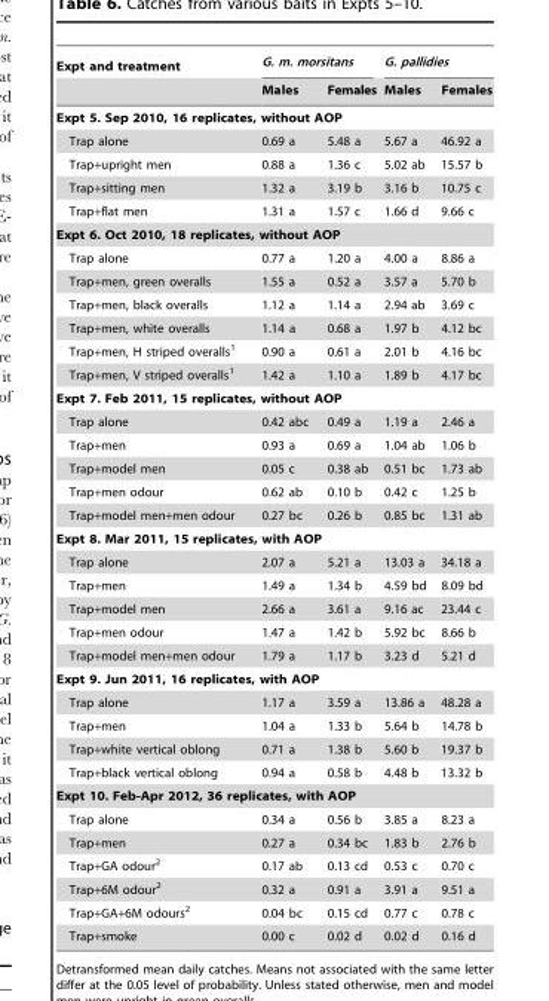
<table><thead><tr><td rowspan="2">Expt and treatment</td><td colspan="2">G. m. morsitans</td><td colspan="2">G. pallidies</td></tr><tr><td>Males</td><td>Females</td><td>Males</td><td>Females</td></tr></thead><tbody><tr><td colspan="5">Expt 5. Sep 2010, 16 replicates, without AOP</td></tr><tr><td>Trap alone</td><td>0.69 a</td><td>5.48 a</td><td>5.67 a</td><td>46.92 a</td></tr><tr><td>Trap+upright men</td><td>0.88 a</td><td>1.36 c</td><td>5.02 ab</td><td>15.57 b</td></tr><tr><td>Trap+sitting men</td><td>1.32 a</td><td>3.19 b</td><td>3.16 b</td><td>10.75 c</td></tr><tr><td>Trap+flat men</td><td>1.31 a</td><td>1.57 c</td><td>1.66 d</td><td>9.66 c</td></tr><tr><td colspan="5">Expt 6. Oct 2010, 18 replicates, without AOP</td></tr><tr><td>Trap alone</td><td>0.77 a</td><td>1.20 a</td><td>4.00 a</td><td>8.86 a</td></tr><tr><td>Trap+men, green overalls</td><td>1.55 a</td><td>0.52 a</td><td>3.57 a</td><td>5.70 b</td></tr><tr><td>Trap+men, black overalls</td><td>1.12 a</td><td>1.14 a</td><td>2.94 ab</td><td>3.69 c</td></tr><tr><td>Trap+men, white overalls</td><td>1.14 a</td><td>0.68 a</td><td>1.97 b</td><td>4.12 bc</td></tr><tr><td>Trap+men, H striped overalls<sup>1</sup></td><td>0.90 a</td><td>0.61 a</td><td>2.01 b</td><td>4.16 bc</td></tr><tr><td>Trap+men, V striped overalls<sup>1</sup></td><td>1.42 a</td><td>1.10 a</td><td>1.89 b</td><td>4.17 bc</td></tr><tr><td colspan="5">Expt 7. Feb 2011, 15 replicates, without AOP</td></tr><tr><td>Trap alone</td><td>0.42 abc</td><td>0.49 a</td><td>1.19 a</td><td>2.46 a</td></tr><tr><td>Trap+men</td><td>0.93 a</td><td>0.69 a</td><td>1.04 ab</td><td>1.06 b</td></tr><tr><td>Trap+model men</td><td>0.05 c</td><td>0.38 ab</td><td>0.51 bc</td><td>1.73 ab</td></tr><tr><td>Trap+men odour</td><td>0.62 ab</td><td>0.10 b</td><td>0.42 c</td><td>1.25 b</td></tr><tr><td>Trap+model men+men odour</td><td>0.27 bc</td><td>0.26 b</td><td>0.85 bc</td><td>1.31 ab</td></tr><tr><td colspan="5">Expt 8. Mar 2011, 15 replicates, with AOP</td></tr><tr><td>Trap alone</td><td>2.07 a</td><td>5.21 a</td><td>13.03 a</td><td>34.18 a</td></tr><tr><td>Trap+men</td><td>1.49 a</td><td>1.34 b</td><td>4.59 bd</td><td>8.09 bd</td></tr><tr><td>Trap+model men</td><td>2.66 a</td><td>3.61 a</td><td>9.16 ac</td><td>23.44 c</td></tr><tr><td>Trap+men odour</td><td>1.47 a</td><td>1.42 b</td><td>5.92 bc</td><td>8.66 b</td></tr><tr><td>Trap+model men+men odour</td><td>1.79 a</td><td>1.17 b</td><td>3.23 d</td><td>5.21 d</td></tr><tr><td colspan="5">Expt 9. Jun 2011, 16 replicates, with AOP</td></tr><tr><td>Trap alone</td><td>1.17 a</td><td>3.59 a</td><td>13.86 a</td><td>48.28 a</td></tr><tr><td>Trap+men</td><td>1.04 a</td><td>1.33 b</td><td>5.64 b</td><td>14.78 b</td></tr><tr><td>Trap+white vertical oblong</td><td>0.71 a</td><td>1.38 b</td><td>5.60 b</td><td>19.37 b</td></tr><tr><td>Trap+black vertical oblong</td><td>0.94 a</td><td>0.58 b</td><td>4.48 b</td><td>13.32 b</td></tr><tr><td colspan="5">Expt 10. Feb-Apr 2012, 36 replicates, with AOP</td></tr><tr><td>Trap alone</td><td>0.34 a</td><td>0.56 b</td><td>3.85 a</td><td>8.23 a</td></tr><tr><td>Trap+men</td><td>0.27 a</td><td>0.34 bc</td><td>1.83 b</td><td>2.76 b</td></tr><tr><td>Trap+GA odour<sup>2</sup></td><td>0.17 ab</td><td>0.13 cd</td><td>0.53 c</td><td>0.70 c</td></tr><tr><td>Trap+6M odour<sup>2</sup></td><td>0.32 a</td><td>0.91 a</td><td>3.91 a</td><td>9.51 a</td></tr><tr><td>Trap+GA+6M odours<sup>2</sup></td><td>0.04 bc</td><td>0.15 cd</td><td>0.77 c</td><td>0.78 c</td></tr><tr><td>Trap+smoke</td><td>0.00 c</td><td>0.02 d</td><td>0.02 d</td><td>0.16 d</td></tr></tbody></table>